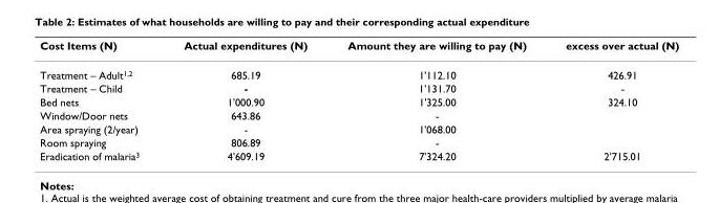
<table><thead><tr><td>Cost Items (N)</td><td>Actual expenditures (N)</td><td>Amount they are willing to pay (N)</td><td>excess over actual (N)</td></tr></thead><tbody><tr><td>Treatment – Adult<sup>1,2</sup></td><td>685.19</td><td>1&#x27;112.10</td><td>426.91</td></tr><tr><td>Treatment – Child</td><td>-</td><td>1&#x27;131.70</td><td>-</td></tr><tr><td>Bed nets</td><td>1&#x27;000.90</td><td>1&#x27;325.00</td><td>324.10</td></tr><tr><td>Window/Door nets</td><td>643.86</td><td>-</td><td></td></tr><tr><td>Area spraying (2/year)</td><td>-</td><td>1&#x27;068.00</td><td></td></tr><tr><td>Room spraying</td><td>806.89</td><td>-</td><td></td></tr><tr><td>Eradication of malaria<sup>3</sup></td><td>4&#x27;609.19</td><td>7&#x27;324.20</td><td>2&#x27;715.01</td></tr></tbody></table>